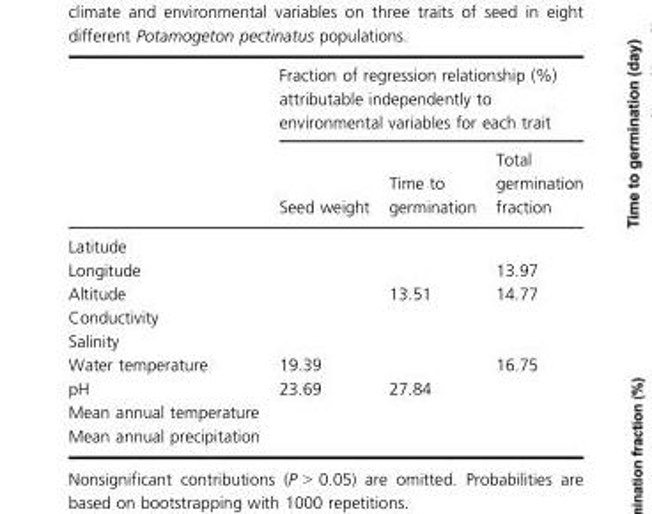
<table><thead><tr><td rowspan="2"></td><td colspan="3">Fraction of regression relationship (%) attributable independently to environmental variables for each trait</td></tr><tr><td>Seed weight</td><td>Time to germination</td><td>Total germination fraction</td></tr></thead><tbody><tr><td colspan="4">Latitude</td></tr><tr><td>Longitude</td><td></td><td></td><td>13.97</td></tr><tr><td>Altitude</td><td></td><td>13.51</td><td>14.77</td></tr><tr><td colspan="4">Conductivity</td></tr><tr><td colspan="4">Salinity</td></tr><tr><td>Water temperature</td><td>19.39</td><td></td><td>16.75</td></tr><tr><td>pH</td><td>23.69</td><td>27.84</td><td></td></tr><tr><td colspan="4">Mean annual temperature</td></tr><tr><td>Mean annual precipitation</td><td></td><td></td><td></td></tr></tbody></table>